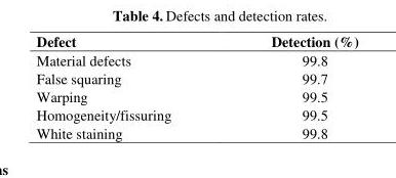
<table><thead><tr><td>Defect</td><td>Detection (%)</td></tr></thead><tbody><tr><td>Material defects</td><td>99.8</td></tr><tr><td>False squaring</td><td>99.7</td></tr><tr><td>Warping</td><td>99.5</td></tr><tr><td>Homogeneity/fissuring</td><td>99.5</td></tr><tr><td>White staining</td><td>99.8</td></tr></tbody></table>